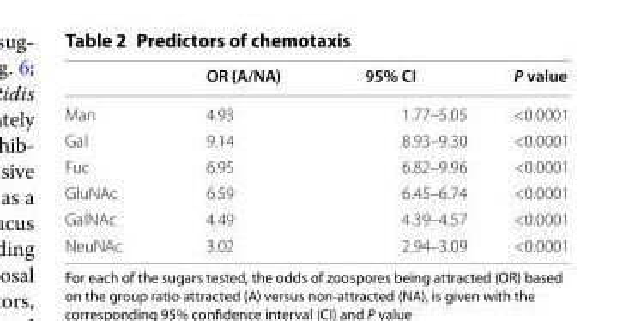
<table><thead><tr><td></td><td>OR (A/NA)</td><td>95% CI</td><td>P value</td></tr></thead><tbody><tr><td>Man</td><td>4.93</td><td>1.77–5.05</td><td>&lt;0.0001</td></tr><tr><td>Gal</td><td>9.14</td><td>8.93–9.30</td><td>&lt;0.0001</td></tr><tr><td>Fuc</td><td>6.95</td><td>6.82–9.96</td><td>&lt;0.0001</td></tr><tr><td>GluNAc</td><td>6.59</td><td>6.45–6.74</td><td>&lt;0.0001</td></tr><tr><td>GalNAc</td><td>4.49</td><td>4.39–4.57</td><td>&lt;0.0001</td></tr><tr><td>NeuNAc</td><td>3.02</td><td>2.94–3.09</td><td>&lt;0.0001</td></tr></tbody></table>